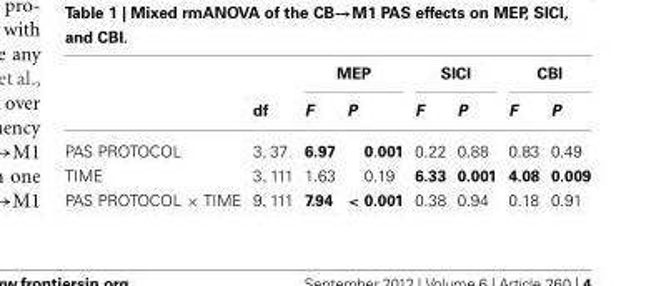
<table><thead><tr><td rowspan="2"></td><td rowspan="2">df</td><td colspan="2">MEP</td><td colspan="2">SICI</td><td colspan="2">CBI</td></tr><tr><td>F</td><td>P</td><td>F</td><td>P</td><td>F</td><td>P</td></tr></thead><tbody><tr><td>PAS PROTOCOL</td><td>3, 37</td><td>6.97</td><td>0.001</td><td>0.22</td><td>0.88</td><td>0.83</td><td>0.49</td></tr><tr><td>TIME</td><td>3, 111</td><td>1.63</td><td>0.19</td><td>6.33</td><td>0.001</td><td>4.08</td><td>0.009</td></tr><tr><td>PAS PROTOCOL × TIME</td><td>9, 111</td><td>7.94</td><td>&lt; 0.001</td><td>0.38</td><td>0.94</td><td>0.18</td><td>0.91</td></tr></tbody></table>